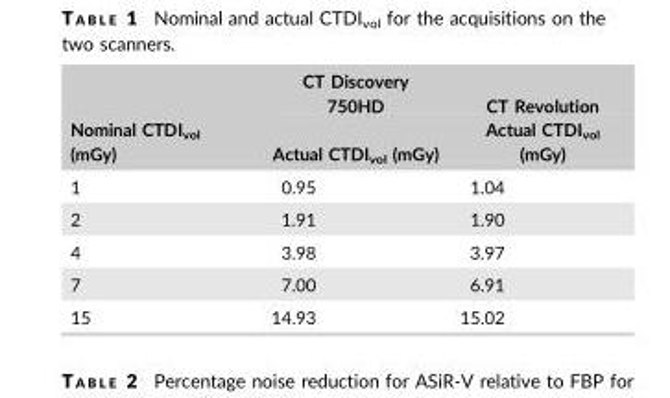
<table><thead><tr><td rowspan="2">Nominal CTDI<sub>vol</sub> (mGy)</td><td rowspan="2">CT Discovery 750HD Actual CTDI<sub>vol</sub> (mGy)</td><td rowspan="2">CT Revolution Actual CTDI<sub>vol</sub> (mGy)</td></tr><tr></tr></thead><tbody><tr><td>1</td><td>0.95</td><td>1.04</td></tr><tr><td>2</td><td>1.91</td><td>1.90</td></tr><tr><td>4</td><td>3.98</td><td>3.97</td></tr><tr><td>7</td><td>7.00</td><td>6.91</td></tr><tr><td>15</td><td>14.93</td><td>15.02</td></tr></tbody></table>